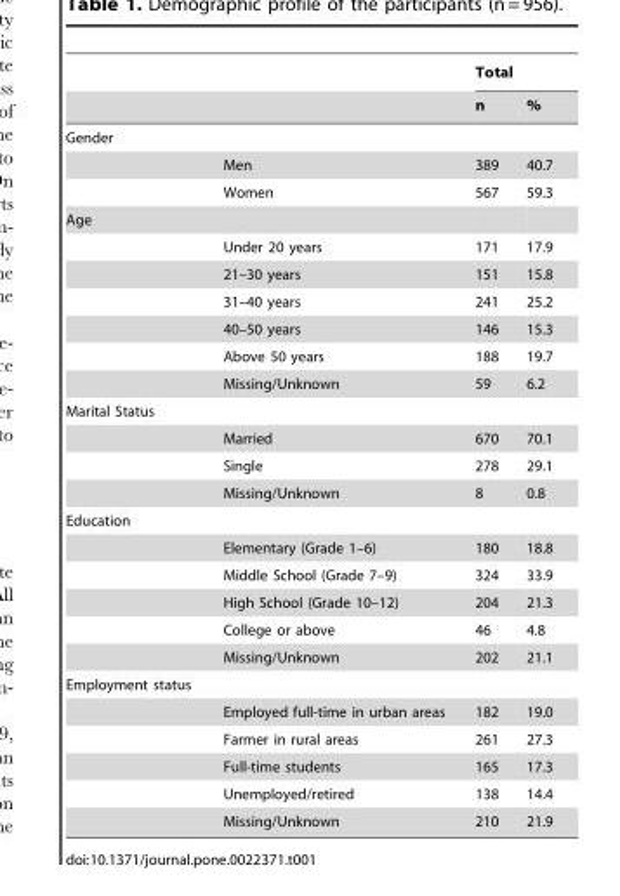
<table><thead><tr><td rowspan="2"></td><td colspan="2">Total</td></tr><tr><td>n</td><td>%</td></tr></thead><tbody><tr><td colspan="3">Gender</td></tr><tr><td>Men</td><td>389</td><td>40.7</td></tr><tr><td>Women</td><td>567</td><td>59.3</td></tr><tr><td colspan="3">Age</td></tr><tr><td>Under 20 years</td><td>171</td><td>17.9</td></tr><tr><td>21–30 years</td><td>151</td><td>15.8</td></tr><tr><td>31–40 years</td><td>241</td><td>25.2</td></tr><tr><td>40–50 years</td><td>146</td><td>15.3</td></tr><tr><td>Above 50 years</td><td>188</td><td>19.7</td></tr><tr><td>Missing/Unknown</td><td>59</td><td>6.2</td></tr><tr><td colspan="3">Marital Status</td></tr><tr><td>Married</td><td>670</td><td>70.1</td></tr><tr><td>Single</td><td>278</td><td>29.1</td></tr><tr><td>Missing/Unknown</td><td>8</td><td>0.8</td></tr><tr><td colspan="3">Education</td></tr><tr><td>Elementary (Grade 1–6)</td><td>180</td><td>18.8</td></tr><tr><td>Middle School (Grade 7–9)</td><td>324</td><td>33.9</td></tr><tr><td>High School (Grade 10–12)</td><td>204</td><td>21.3</td></tr><tr><td>College or above</td><td>46</td><td>4.8</td></tr><tr><td>Missing/Unknown</td><td>202</td><td>21.1</td></tr><tr><td colspan="3">Employment status</td></tr><tr><td>Employed full-time in urban areas</td><td>182</td><td>19.0</td></tr><tr><td>Farmer in rural areas</td><td>261</td><td>27.3</td></tr><tr><td>Full-time students</td><td>165</td><td>17.3</td></tr><tr><td>Unemployed/retired</td><td>138</td><td>14.4</td></tr><tr><td>Missing/Unknown</td><td>210</td><td>21.9</td></tr></tbody></table>